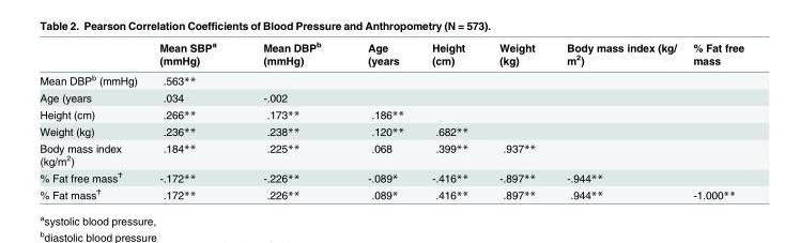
<table><thead><tr><td></td><td>Mean SBP<sup>a</sup> (mmHg)</td><td>Mean DBP<sup>b</sup> (mmHg)</td><td>Age (years</td><td>Height (cm)</td><td>Weight (kg)</td><td>Body mass index (kg/ m<sup>2</sup>)</td><td>% Fat free mass</td></tr></thead><tbody><tr><td>Mean DBP<sup>b</sup> (mmHg)</td><td>.563**</td><td></td><td></td><td></td><td></td><td></td><td></td></tr><tr><td>Age (years</td><td>.034</td><td>-.002</td><td></td><td></td><td></td><td></td><td></td></tr><tr><td>Height (cm)</td><td>.266**</td><td>.173**</td><td>.186**</td><td></td><td></td><td></td><td></td></tr><tr><td>Weight (kg)</td><td>.236**</td><td>.238**</td><td>.120**</td><td>.682**</td><td></td><td></td><td></td></tr><tr><td>Body mass index (kg/m<sup>2</sup>)</td><td>.184**</td><td>.225**</td><td>.068</td><td>.399**</td><td>.937**</td><td></td><td></td></tr><tr><td>% Fat free mass<sup>Ϯ</sup></td><td>-.172**</td><td>-.226**</td><td>-.089*</td><td>-.416**</td><td>-.897**</td><td>-.944**</td><td></td></tr><tr><td>% Fat mass<sup>Ϯ</sup></td><td>.172**</td><td>.226**</td><td>.089*</td><td>.416**</td><td>.897**</td><td>.944**</td><td>-1.000**</td></tr></tbody></table>